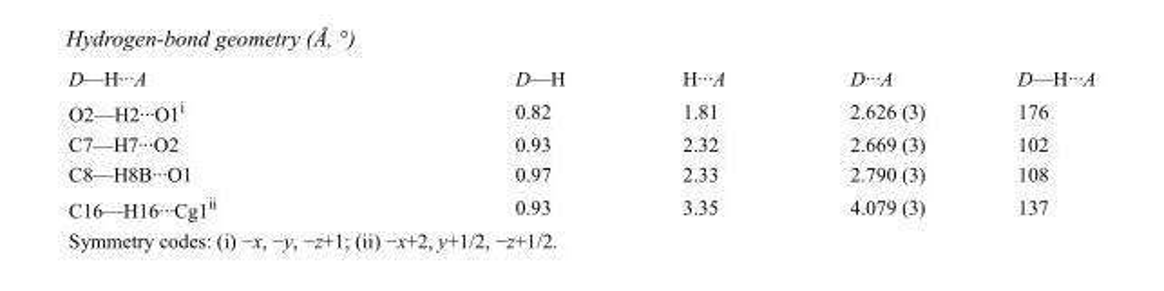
<table><tbody><tr><td>D—H···A</td><td>D—H</td><td>H···A</td><td>D···A</td><td>D—H···A</td></tr><tr><td>O2—H2···O1<sup>i</sup></td><td>0.82</td><td>1.81</td><td>2.626 (3)</td><td>176</td></tr><tr><td>C7—H7···O2</td><td>0.93</td><td>2.32</td><td>2.669 (3)</td><td>102</td></tr><tr><td>C8—H8B···O1</td><td>0.97</td><td>2.33</td><td>2.790 (3)</td><td>108</td></tr><tr><td>C16—H16···Cg1<sup>ii</sup></td><td>0.93</td><td>3.35</td><td>4.079 (3)</td><td>137</td></tr></tbody></table>